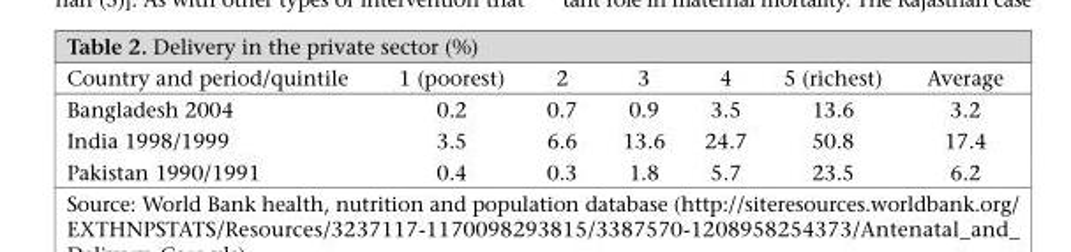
<table><thead><tr><td>Country and period/quintile</td><td>1 (poorest)</td><td>2</td><td>3</td><td>4</td><td>5 (richest)</td><td>Average</td></tr></thead><tbody><tr><td>Bangladesh 2004</td><td>0.2</td><td>0.7</td><td>0.9</td><td>3.5</td><td>13.6</td><td>3.2</td></tr><tr><td>India 1998/1999</td><td>3.5</td><td>6.6</td><td>13.6</td><td>24.7</td><td>50.8</td><td>17.4</td></tr><tr><td>Pakistan 1990/1991</td><td>0.4</td><td>0.3</td><td>1.8</td><td>5.7</td><td>23.5</td><td>6.2</td></tr></tbody></table>